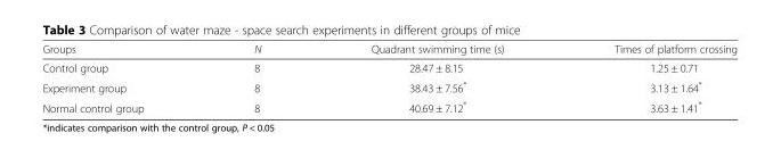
<table><thead><tr><td>Groups</td><td>N</td><td>Quadrant swimming time (s)</td><td>Times of platform crossing</td></tr></thead><tbody><tr><td>Control group</td><td>8</td><td>28.47 ± 8.15</td><td>1.25 ± 0.71</td></tr><tr><td>Experiment group</td><td>8</td><td>38.43 ± 7.56*</td><td>3.13 ± 1.64*</td></tr><tr><td>Normal control group</td><td>8</td><td>40.69 ± 7.12*</td><td>3.63 ± 1.41*</td></tr></tbody></table>